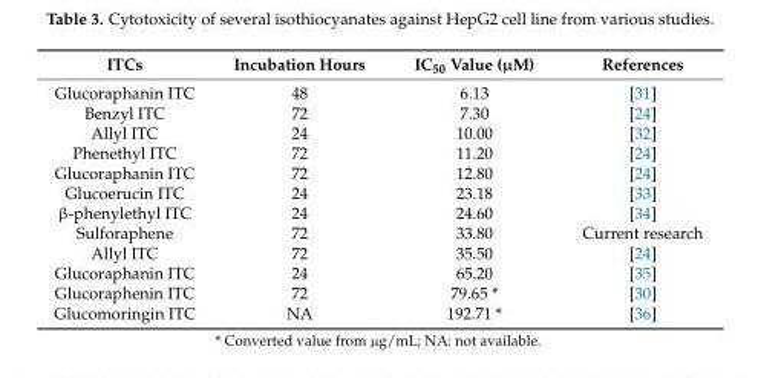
<table><thead><tr><td>ITCs</td><td>Incubation Hours</td><td>IC<sub>50</sub> Value (µM)</td><td>References</td></tr></thead><tbody><tr><td>Glucoraphanin ITC</td><td>48</td><td>6.13</td><td>[31]</td></tr><tr><td>Benzyl ITC</td><td>72</td><td>7.30</td><td>[24]</td></tr><tr><td>Allyl ITC</td><td>24</td><td>10.00</td><td>[32]</td></tr><tr><td>Phenethyl ITC</td><td>72</td><td>11.20</td><td>[24]</td></tr><tr><td>Glucoraphanin ITC</td><td>72</td><td>12.80</td><td>[24]</td></tr><tr><td>Glucoerucin ITC</td><td>24</td><td>23.18</td><td>[33]</td></tr><tr><td>β-phenylethyl ITC</td><td>24</td><td>24.60</td><td>[34]</td></tr><tr><td>Sulforaphene</td><td>72</td><td>33.80</td><td>Current research</td></tr><tr><td>Allyl ITC</td><td>72</td><td>35.50</td><td>[24]</td></tr><tr><td>Glucoraphanin ITC</td><td>24</td><td>65.20</td><td>[35]</td></tr><tr><td>Glucoraphenin ITC</td><td>72</td><td>79.65 *</td><td>[30]</td></tr><tr><td>Glucomoringin ITC</td><td>NA</td><td>192.71 *</td><td>[36]</td></tr></tbody></table>